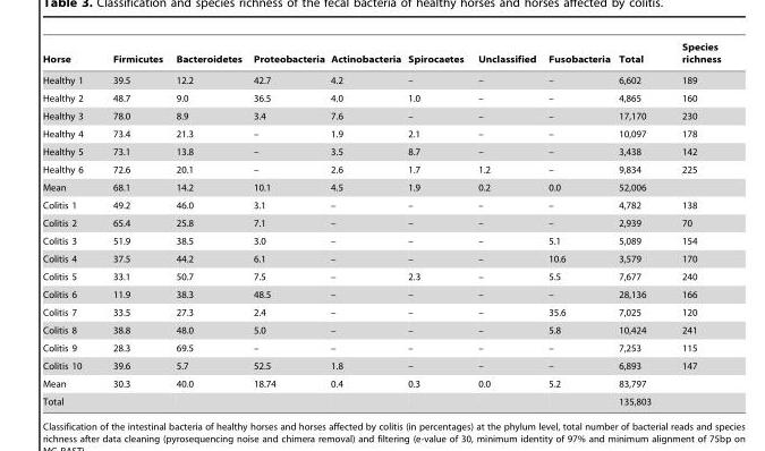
<table><thead><tr><td>Horse</td><td>Firmicutes</td><td>Bacteroidetes</td><td>Proteobacteria</td><td>Actinobacteria</td><td>Spirocaetes</td><td>Unclassified</td><td>Fusobacteria</td><td>Total</td><td>Species richness</td></tr></thead><tbody><tr><td>Healthy 1</td><td>39.5</td><td>12.2</td><td>42.7</td><td>4.2</td><td>–</td><td>–</td><td>–</td><td>6,602</td><td>189</td></tr><tr><td>Healthy 2</td><td>48.7</td><td>9.0</td><td>36.5</td><td>4.0</td><td>1.0</td><td>–</td><td>–</td><td>4,865</td><td>160</td></tr><tr><td>Healthy 3</td><td>78.0</td><td>8.9</td><td>3.4</td><td>7.6</td><td>–</td><td>–</td><td>–</td><td>17,170</td><td>230</td></tr><tr><td>Healthy 4</td><td>73.4</td><td>21.3</td><td>–</td><td>1.9</td><td>2.1</td><td>–</td><td>–</td><td>10,097</td><td>178</td></tr><tr><td>Healthy 5</td><td>73.1</td><td>13.8</td><td>–</td><td>3.5</td><td>8.7</td><td>–</td><td>–</td><td>3,438</td><td>142</td></tr><tr><td>Healthy 6</td><td>72.6</td><td>20.1</td><td>–</td><td>2.6</td><td>1.7</td><td>1.2</td><td>–</td><td>9,834</td><td>225</td></tr><tr><td>Mean</td><td>68.1</td><td>14.2</td><td>10.1</td><td>4.5</td><td>1.9</td><td>0.2</td><td>0.0</td><td>52,006</td><td></td></tr><tr><td>Colitis 1</td><td>49.2</td><td>46.0</td><td>3.1</td><td>–</td><td>–</td><td>–</td><td>–</td><td>4,782</td><td>138</td></tr><tr><td>Colitis 2</td><td>65.4</td><td>25.8</td><td>7.1</td><td>–</td><td>–</td><td>–</td><td>–</td><td>2,939</td><td>70</td></tr><tr><td>Colitis 3</td><td>51.9</td><td>38.5</td><td>3.0</td><td>–</td><td>–</td><td>–</td><td>5.1</td><td>5,089</td><td>154</td></tr><tr><td>Colitis 4</td><td>37.5</td><td>44.2</td><td>6.1</td><td>–</td><td>–</td><td>–</td><td>10.6</td><td>3,579</td><td>170</td></tr><tr><td>Colitis 5</td><td>33.1</td><td>50.7</td><td>7.5</td><td>–</td><td>2.3</td><td>–</td><td>5.5</td><td>7,677</td><td>240</td></tr><tr><td>Colitis 6</td><td>11.9</td><td>38.3</td><td>48.5</td><td>–</td><td>–</td><td>–</td><td>–</td><td>28,136</td><td>166</td></tr><tr><td>Colitis 7</td><td>33.5</td><td>27.3</td><td>2.4</td><td>–</td><td>–</td><td>–</td><td>35.6</td><td>7,025</td><td>120</td></tr><tr><td>Colitis 8</td><td>38.8</td><td>48.0</td><td>5.0</td><td>–</td><td>–</td><td>–</td><td>5.8</td><td>10,424</td><td>241</td></tr><tr><td>Colitis 9</td><td>28.3</td><td>69.5</td><td>–</td><td>–</td><td>–</td><td>–</td><td>–</td><td>7,253</td><td>115</td></tr><tr><td>Colitis 10</td><td>39.6</td><td>5.7</td><td>52.5</td><td>1.8</td><td>–</td><td>–</td><td>–</td><td>6,893</td><td>147</td></tr><tr><td>Mean</td><td>30.3</td><td>40.0</td><td>18.74</td><td>0.4</td><td>0.3</td><td>0.0</td><td>5.2</td><td>83,797</td><td></td></tr><tr><td>Total</td><td></td><td></td><td></td><td></td><td></td><td></td><td></td><td>135,803</td><td></td></tr></tbody></table>